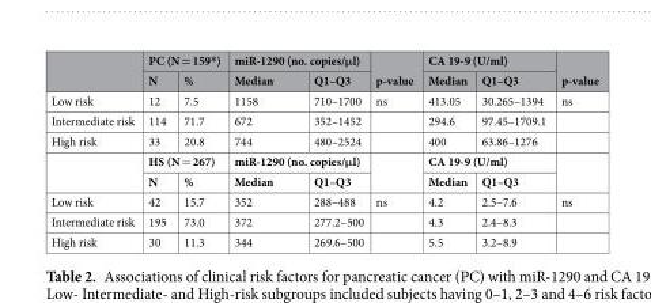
<table><thead><tr><td rowspan="2"></td><td colspan="2">PC (N = 159*)</td><td colspan="2">miR-1290 (no. copies/μl)</td><td rowspan="2">p-value</td><td colspan="2">CA 19-9 (U/ml)</td><td rowspan="2">p-value</td></tr><tr><td>N</td><td>%</td><td>Median</td><td>Q1–Q3</td><td>Median</td><td>Q1–Q3</td></tr></thead><tbody><tr><td>Low risk</td><td>12</td><td>7.5</td><td>1158</td><td>710–1700</td><td>ns</td><td>413.05</td><td>30.265–1394</td><td>ns</td></tr><tr><td>Intermediate risk</td><td>114</td><td>71.7</td><td>672</td><td>352–1452</td><td></td><td>294.6</td><td>97.45–1709.1</td><td></td></tr><tr><td rowspan="3">High risk</td><td>33</td><td>20.8</td><td>744</td><td>480–2524</td><td></td><td>400</td><td>63.86–1276</td><td></td></tr><tr><td colspan="2">HS (N = 267)</td><td colspan="2">miR-1290 (no. copies/μl)</td><td rowspan="2"></td><td colspan="2">CA 19-9 (U/ml)</td><td rowspan="2"></td></tr><tr><td>N</td><td>%</td><td>Median</td><td>Q1–Q3</td><td>Median</td><td>Q1–Q3</td></tr><tr><td>Low risk</td><td>42</td><td>15.7</td><td>352</td><td>288–488</td><td>ns</td><td>4.2</td><td>2.5–7.6</td><td>ns</td></tr><tr><td>Intermediate risk</td><td>195</td><td>73.0</td><td>372</td><td>277.2–500</td><td></td><td>4.3</td><td>2.4–8.3</td><td></td></tr><tr><td>High risk</td><td>30</td><td>11.3</td><td>344</td><td>269.6–500</td><td></td><td>5.5</td><td>3.2–8.9</td><td></td></tr></tbody></table>